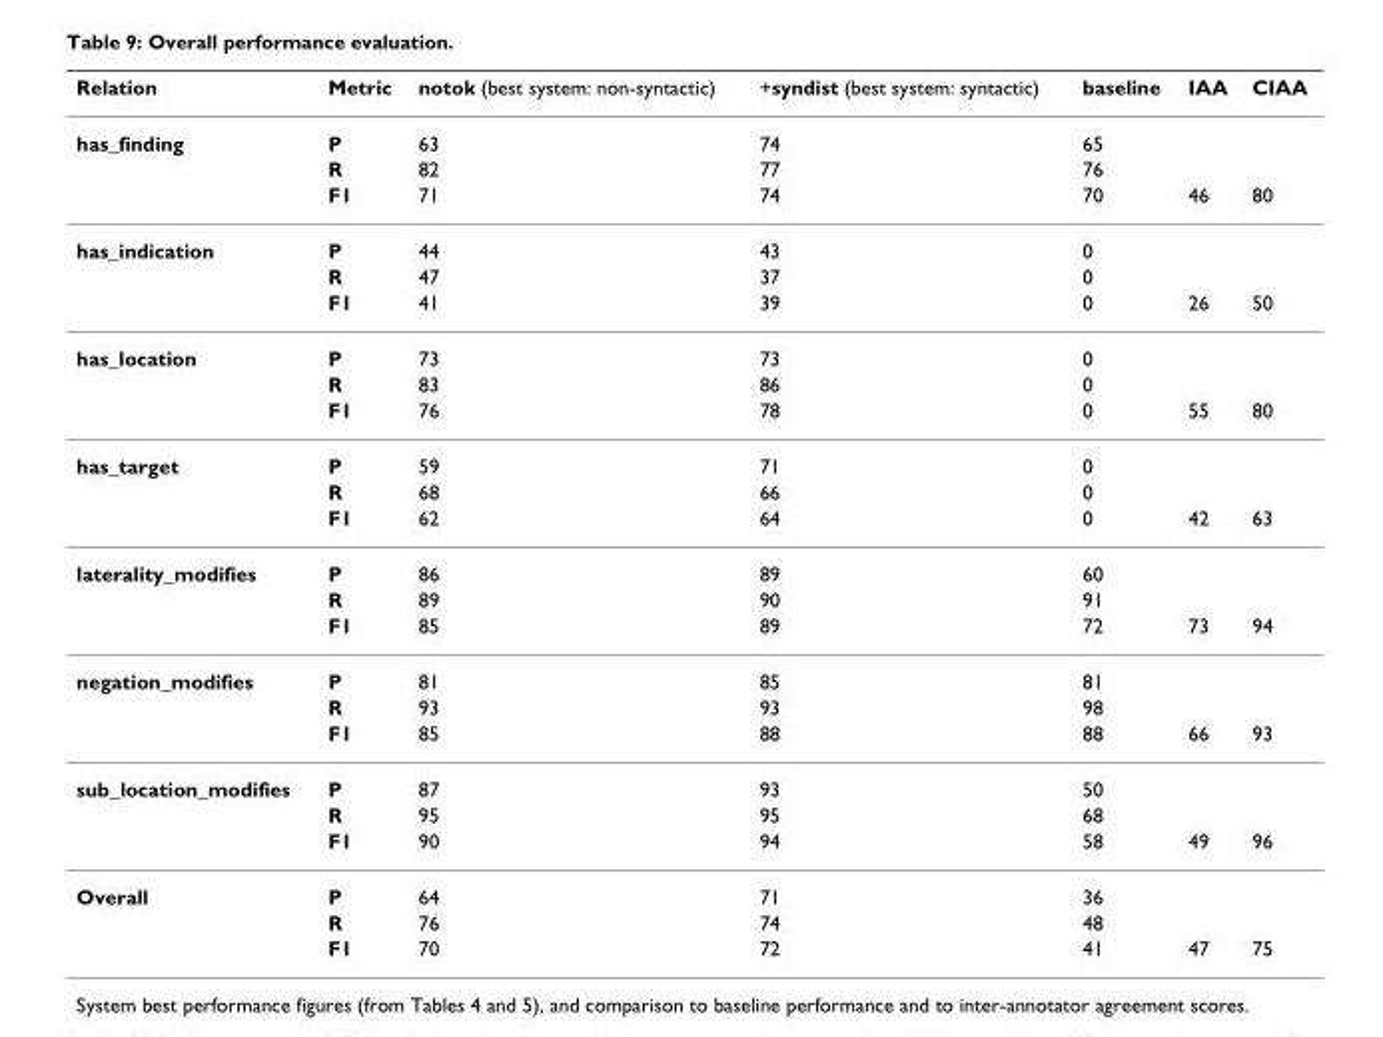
<table><thead><tr><td>Relation</td><td>Metric</td><td>notok (best system: non-syntactic)</td><td>+syndist (best system: syntactic)</td><td>baseline</td><td>IAA</td><td>CIAA</td></tr></thead><tbody><tr><td rowspan="3">has_finding</td><td>P</td><td>63</td><td>74</td><td>65</td><td></td><td></td></tr><tr><td>R</td><td>82</td><td>77</td><td>76</td><td></td><td></td></tr><tr><td>F1</td><td>71</td><td>74</td><td>70</td><td>46</td><td>80</td></tr><tr><td rowspan="3">has_indication</td><td>P</td><td>44</td><td>43</td><td>0</td><td></td><td></td></tr><tr><td>R</td><td>47</td><td>37</td><td>0</td><td></td><td></td></tr><tr><td>F1</td><td>41</td><td>39</td><td>0</td><td>26</td><td>50</td></tr><tr><td rowspan="3">has_location</td><td>P</td><td>73</td><td>73</td><td>0</td><td></td><td></td></tr><tr><td>R</td><td>83</td><td>86</td><td>0</td><td></td><td></td></tr><tr><td>F1</td><td>76</td><td>78</td><td>0</td><td>55</td><td>80</td></tr><tr><td rowspan="3">has_target</td><td>P</td><td>59</td><td>71</td><td>0</td><td></td><td></td></tr><tr><td>R</td><td>68</td><td>66</td><td>0</td><td></td><td></td></tr><tr><td>F1</td><td>62</td><td>64</td><td>0</td><td>42</td><td>63</td></tr><tr><td rowspan="3">laterality_modifies</td><td>P</td><td>86</td><td>89</td><td>60</td><td></td><td></td></tr><tr><td>R</td><td>89</td><td>90</td><td>91</td><td></td><td></td></tr><tr><td>F1</td><td>85</td><td>89</td><td>72</td><td>73</td><td>94</td></tr><tr><td rowspan="3">negation_modifies</td><td>P</td><td>81</td><td>85</td><td>81</td><td></td><td></td></tr><tr><td>R</td><td>93</td><td>93</td><td>98</td><td></td><td></td></tr><tr><td>F1</td><td>85</td><td>88</td><td>88</td><td>66</td><td>93</td></tr><tr><td rowspan="3">sub_location_modifies</td><td>P</td><td>87</td><td>93</td><td>50</td><td></td><td></td></tr><tr><td>R</td><td>95</td><td>95</td><td>68</td><td></td><td></td></tr><tr><td>F1</td><td>90</td><td>94</td><td>58</td><td>49</td><td>96</td></tr><tr><td rowspan="3">Overall</td><td>P</td><td>64</td><td>71</td><td>36</td><td></td><td></td></tr><tr><td>R</td><td>76</td><td>74</td><td>48</td><td></td><td></td></tr><tr><td>F1</td><td>70</td><td>72</td><td>41</td><td>47</td><td>75</td></tr></tbody></table>